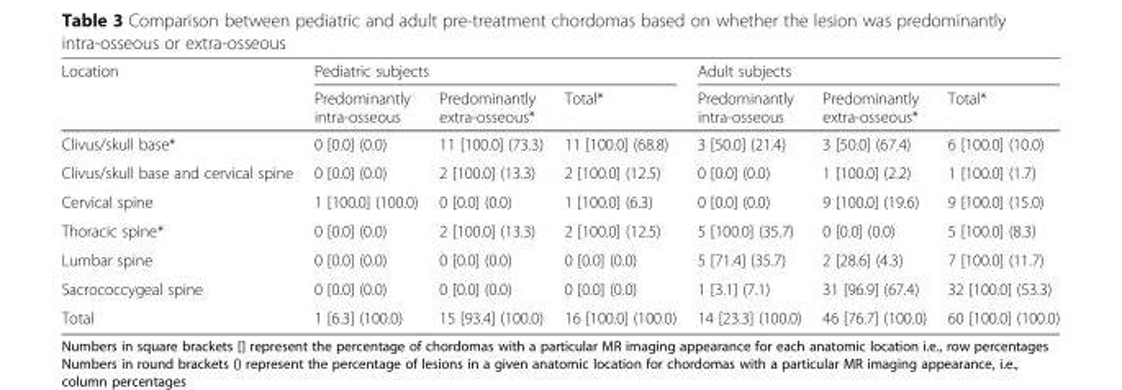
<table><thead><tr><td rowspan="2">Location</td><td colspan="3">Pediatric subjects</td><td colspan="3">Adult subjects</td></tr><tr><td>Predominantly intra-osseous</td><td>Predominantly extra-osseous*</td><td>Total*</td><td>Predominantly intra-osseous</td><td>Predominantly extra-osseous*</td><td>Total*</td></tr></thead><tbody><tr><td>Clivus/skull base*</td><td>0 [0.0] (0.0)</td><td>11 [100.0] (73.3)</td><td>11 [100.0] (68.8)</td><td>3 [50.0] (21.4)</td><td>3 [50.0] (67.4)</td><td>6 [100.0] (10.0)</td></tr><tr><td>Clivus/skull base and cervical spine</td><td>0 [0.0] (0.0)</td><td>2 [100.0] (13.3)</td><td>2 [100.0] (12.5)</td><td>0 [0.0] (0.0)</td><td>1 [100.0] (2.2)</td><td>1 [100.0] (1.7)</td></tr><tr><td>Cervical spine</td><td>1 [100.0] (100.0)</td><td>0 [0.0] (0.0)</td><td>1 [100.0] (6.3)</td><td>0 [0.0] (0.0)</td><td>9 [100.0] (19.6)</td><td>9 [100.0] (15.0)</td></tr><tr><td>Thoracic spine*</td><td>0 [0.0] (0.0)</td><td>2 [100.0] (13.3)</td><td>2 [100.0] (12.5)</td><td>5 [100.0] (35.7)</td><td>0 [0.0] (0.0)</td><td>5 [100.0] (8.3)</td></tr><tr><td>Lumbar spine</td><td>0 [0.0] (0.0)</td><td>0 [0.0] (0.0)</td><td>0 [0.0] (0.0)</td><td>5 [71.4] (35.7)</td><td>2 [28.6] (4.3)</td><td>7 [100.0] (11.7)</td></tr><tr><td>Sacrococcygeal spine</td><td>0 [0.0] (0.0)</td><td>0 [0.0] (0.0)</td><td>0 [0.0] (0.0)</td><td>1 [3.1] (7.1)</td><td>31 [96.9] (67.4)</td><td>32 [100.0] (53.3)</td></tr><tr><td>Total</td><td>1 [6.3] (100.0)</td><td>15 [93.4] (100.0)</td><td>16 [100.0] (100.0)</td><td>14 [23.3] (100.0)</td><td>46 [76.7] (100.0)</td><td>60 [100.0] (100.0)</td></tr></tbody></table>